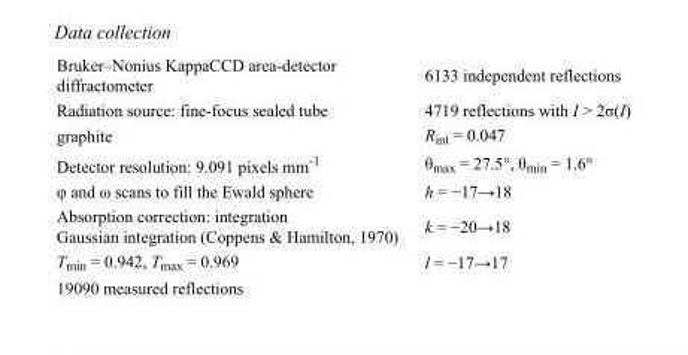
<table><tbody><tr><td>Bruker–Nonius KappaCCD area-detector diffractometer</td><td>6133 independent reflections</td></tr><tr><td>Radiation source: fine-focus sealed tube</td><td>4719 reflections with I &gt; 2σ(I)</td></tr><tr><td>graphite</td><td>R<sub>int</sub> = 0.047</td></tr><tr><td>Detector resolution: 9.091 pixels mm<sup>-1</sup></td><td>θ<sub>max</sub> = 27.5°, θ<sub>min</sub> = 1.6°</td></tr><tr><td>φ and ω scans to fill the Ewald sphere</td><td>h = −17→18</td></tr><tr><td>Absorption correction: integration Gaussian integration (Coppens &amp; Hamilton, 1970)</td><td>k = −20→18</td></tr><tr><td>T<sub>min</sub> = 0.942, T<sub>max</sub> = 0.969</td><td>l = −17→17</td></tr><tr><td>19090 measured reflections</td><td></td></tr></tbody></table>